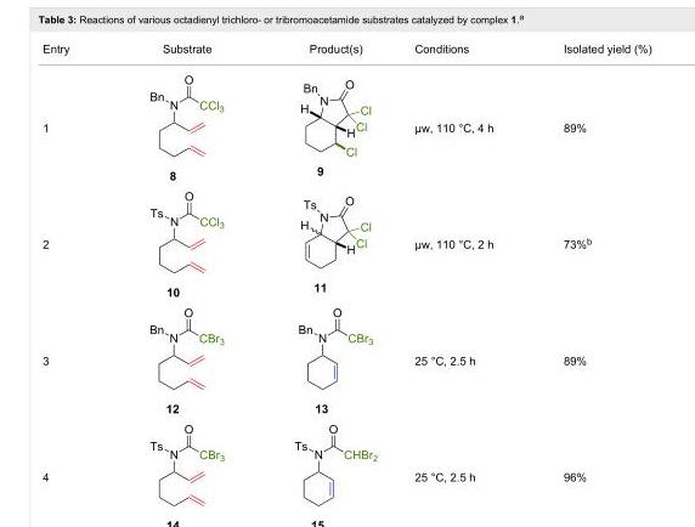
<table><tbody><tr><td>Entry</td><td>Substrate</td><td>Product(s)</td><td>Conditions</td><td>Isolated yield (%)</td></tr><tr><td>1</td><td></td><td></td><td>μw, 110 °C, 4 h</td><td>89%</td></tr><tr><td>2</td><td></td><td></td><td>μw, 110 °C, 2 h</td><td>73%<sup>b</sup></td></tr><tr><td>3</td><td></td><td></td><td>25 °C, 2.5 h</td><td>89%</td></tr><tr><td>4</td><td></td><td></td><td>25 °C, 2.5 h</td><td>96%</td></tr></tbody></table>